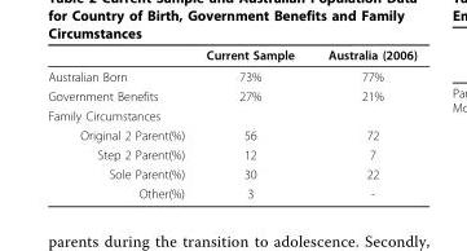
<table><thead><tr><td></td><td>Current Sample</td><td>Australia (2006)</td></tr></thead><tbody><tr><td>Australian Born</td><td>73%</td><td>77%</td></tr><tr><td>Government Benefits</td><td>27%</td><td>21%</td></tr><tr><td colspan="3">Family Circumstances</td></tr><tr><td>Original 2 Parent(%)</td><td>56</td><td>72</td></tr><tr><td>Step 2 Parent(%)</td><td>12</td><td>7</td></tr><tr><td>Sole Parent(%)</td><td>30</td><td>22</td></tr><tr><td>Other(%)</td><td>3</td><td>-</td></tr></tbody></table>